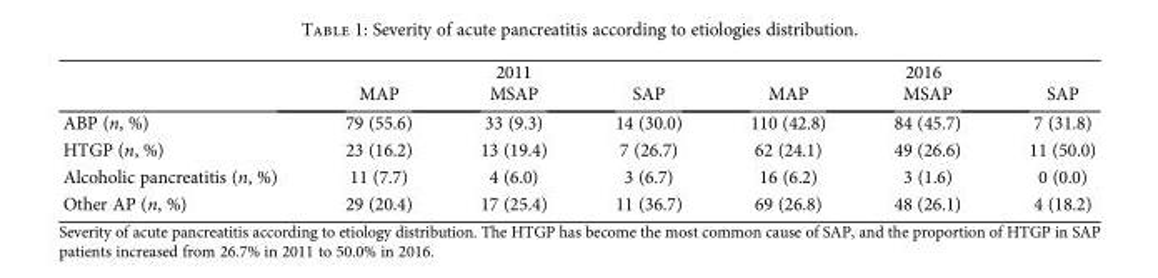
<table><thead><tr><td rowspan="2"></td><td colspan="3">2011</td><td colspan="3">2016</td></tr><tr><td>MAP</td><td>MSAP</td><td>SAP</td><td>MAP</td><td>MSAP</td><td>SAP</td></tr></thead><tbody><tr><td>ABP (n, %)</td><td>79 (55.6)</td><td>33 (9.3)</td><td>14 (30.0)</td><td>110 (42.8)</td><td>84 (45.7)</td><td>7 (31.8)</td></tr><tr><td>HTGP (n, %)</td><td>23 (16.2)</td><td>13 (19.4)</td><td>7 (26.7)</td><td>62 (24.1)</td><td>49 (26.6)</td><td>11 (50.0)</td></tr><tr><td>Alcoholic pancreatitis (n, %)</td><td>11 (7.7)</td><td>4 (6.0)</td><td>3 (6.7)</td><td>16 (6.2)</td><td>3 (1.6)</td><td>0 (0.0)</td></tr><tr><td>Other AP (n, %)</td><td>29 (20.4)</td><td>17 (25.4)</td><td>11 (36.7)</td><td>69 (26.8)</td><td>48 (26.1)</td><td>4 (18.2)</td></tr></tbody></table>